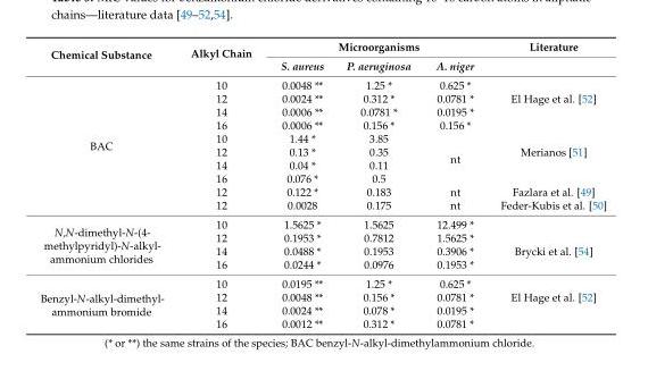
<table><thead><tr><td rowspan="2">Chemical Substance</td><td rowspan="2">Alkyl Chain</td><td colspan="3">Microorganisms</td><td rowspan="2">Literature</td></tr><tr><td>S. aureus</td><td>P. aeruginosa</td><td>A. niger</td></tr></thead><tbody><tr><td rowspan="10">BAC</td><td>10</td><td>0.0048 **</td><td>1.25 *</td><td>0.625 *</td><td></td></tr><tr><td>12</td><td>0.0024 **</td><td>0.312 *</td><td>0.0781 *</td><td>El Hage et al. [52]</td></tr><tr><td>14</td><td>0.0006 **</td><td>0.0781 *</td><td>0.0195 *</td><td></td></tr><tr><td>16</td><td>0.0006 **</td><td>0.156 *</td><td>0.156 *</td><td></td></tr><tr><td>10</td><td>1.44 *</td><td>3.85</td><td rowspan="4">nt</td><td></td></tr><tr><td>12</td><td>0.13 *</td><td>0.35</td><td>Merianos [51]</td></tr><tr><td>14</td><td>0.04 *</td><td>0.11</td><td></td></tr><tr><td>16</td><td>0.076 *</td><td>0.5</td><td></td></tr><tr><td>12</td><td>0.122 *</td><td>0.183</td><td>nt</td><td>Fazlara et al. [49]</td></tr><tr><td>12</td><td>0.0028</td><td>0.175</td><td>nt</td><td>Feder-Kubis et al. [50]</td></tr><tr><td rowspan="4">N,N-dimethyl-N-(4- methylpyridyl)-N-alkyl- ammonium chlorides</td><td>10</td><td>1.5625 *</td><td>1.5625</td><td>12.499 *</td><td></td></tr><tr><td>12</td><td>0.1953 *</td><td>0.7812</td><td>1.5625 *</td><td></td></tr><tr><td>14</td><td>0.0488 *</td><td>0.1953</td><td>0.3906 *</td><td>Brycki et al. [54]</td></tr><tr><td>16</td><td>0.0244 *</td><td>0.0976</td><td>0.1953 *</td><td></td></tr><tr><td rowspan="4">Benzyl-N-alkyl-dimethyl- ammonium bromide</td><td>10</td><td>0.0195 **</td><td>1.25 *</td><td>0.625 *</td><td></td></tr><tr><td>12</td><td>0.0048 **</td><td>0.156 *</td><td>0.0781 *</td><td>El Hage et al. [52]</td></tr><tr><td>14</td><td>0.0024 **</td><td>0.078 *</td><td>0.0195 *</td><td></td></tr><tr><td>16</td><td>0.0012 **</td><td>0.312 *</td><td>0.0781 *</td><td></td></tr></tbody></table>